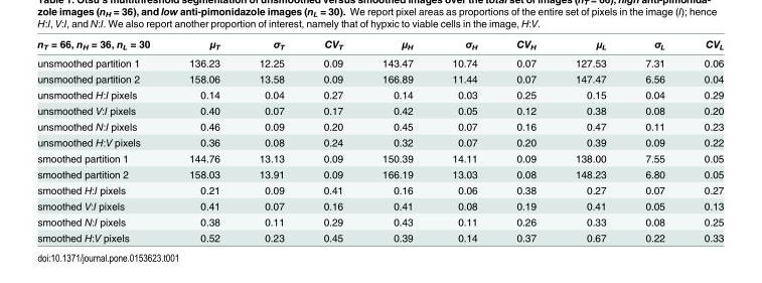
<table><thead><tr><td>n<sub>T</sub> = 66, n<sub>H</sub> = 36, n<sub>L</sub> = 30</td><td>μ<sub>T</sub></td><td>σ<sub>T</sub></td><td>CV<sub>T</sub></td><td>μ<sub>H</sub></td><td>σ<sub>H</sub></td><td>CV<sub>H</sub></td><td>μ<sub>L</sub></td><td>σ<sub>L</sub></td><td>CV<sub>L</sub></td></tr></thead><tbody><tr><td>unsmoothed partition 1</td><td>136.23</td><td>12.25</td><td>0.09</td><td>143.47</td><td>10.74</td><td>0.07</td><td>127.53</td><td>7.31</td><td>0.06</td></tr><tr><td>unsmoothed partition 2</td><td>158.06</td><td>13.58</td><td>0.09</td><td>166.89</td><td>11.44</td><td>0.07</td><td>147.47</td><td>6.56</td><td>0.04</td></tr><tr><td>unsmoothed H:I pixels</td><td>0.14</td><td>0.04</td><td>0.27</td><td>0.14</td><td>0.03</td><td>0.25</td><td>0.15</td><td>0.04</td><td>0.29</td></tr><tr><td>unsmoothed V:I pixels</td><td>0.40</td><td>0.07</td><td>0.17</td><td>0.42</td><td>0.05</td><td>0.12</td><td>0.38</td><td>0.08</td><td>0.20</td></tr><tr><td>unsmoothed N:I pixels</td><td>0.46</td><td>0.09</td><td>0.20</td><td>0.45</td><td>0.07</td><td>0.16</td><td>0.47</td><td>0.11</td><td>0.23</td></tr><tr><td>unsmoothed H:V pixels</td><td>0.36</td><td>0.08</td><td>0.24</td><td>0.32</td><td>0.07</td><td>0.20</td><td>0.39</td><td>0.09</td><td>0.22</td></tr><tr><td>smoothed partition 1</td><td>144.76</td><td>13.13</td><td>0.09</td><td>150.39</td><td>14.11</td><td>0.09</td><td>138.00</td><td>7.55</td><td>0.05</td></tr><tr><td>smoothed partition 2</td><td>158.03</td><td>13.91</td><td>0.09</td><td>166.19</td><td>13.03</td><td>0.08</td><td>148.23</td><td>6.80</td><td>0.05</td></tr><tr><td>smoothed H:I pixels</td><td>0.21</td><td>0.09</td><td>0.41</td><td>0.16</td><td>0.06</td><td>0.38</td><td>0.27</td><td>0.07</td><td>0.27</td></tr><tr><td>smoothed V:I pixels</td><td>0.41</td><td>0.07</td><td>0.16</td><td>0.41</td><td>0.08</td><td>0.19</td><td>0.41</td><td>0.05</td><td>0.13</td></tr><tr><td>smoothed N:I pixels</td><td>0.38</td><td>0.11</td><td>0.29</td><td>0.43</td><td>0.11</td><td>0.26</td><td>0.33</td><td>0.08</td><td>0.25</td></tr><tr><td>smoothed H:V pixels</td><td>0.52</td><td>0.23</td><td>0.45</td><td>0.39</td><td>0.14</td><td>0.37</td><td>0.67</td><td>0.22</td><td>0.33</td></tr></tbody></table>